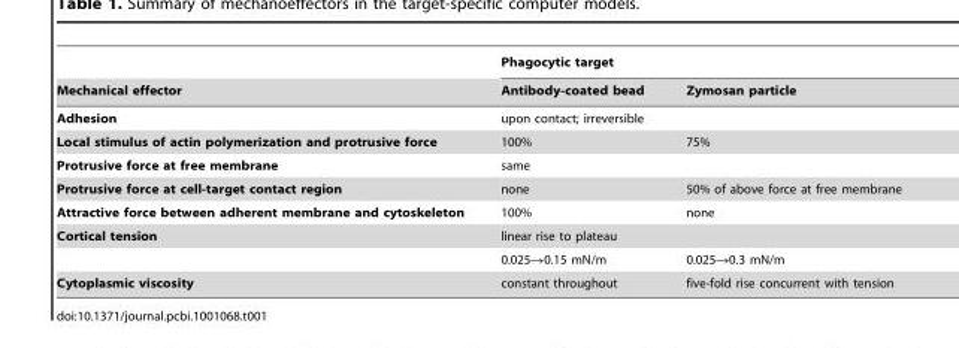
<table><thead><tr><td rowspan="2">Mechanical effector</td><td colspan="2">Phagocytic target</td></tr><tr><td>Antibody-coated bead</td><td>Zymosan particle</td></tr></thead><tbody><tr><td>Adhesion</td><td colspan="2">upon contact; irreversible</td></tr><tr><td>Local stimulus of actin polymerization and protrusive force</td><td>100%</td><td>75%</td></tr><tr><td>Protrusive force at free membrane</td><td colspan="2">same</td></tr><tr><td>Protrusive force at cell-target contact region</td><td>none</td><td>50% of above force at free membrane</td></tr><tr><td>Attractive force between adherent membrane and cytoskeleton</td><td>100%</td><td>none</td></tr><tr><td rowspan="2">Cortical tension</td><td colspan="2">linear rise to plateau</td></tr><tr><td>0.025→0.15 mN/m</td><td>0.025→0.3 mN/m</td></tr><tr><td>Cytoplasmic viscosity</td><td>constant throughout</td><td>five-fold rise concurrent with tension</td></tr></tbody></table>